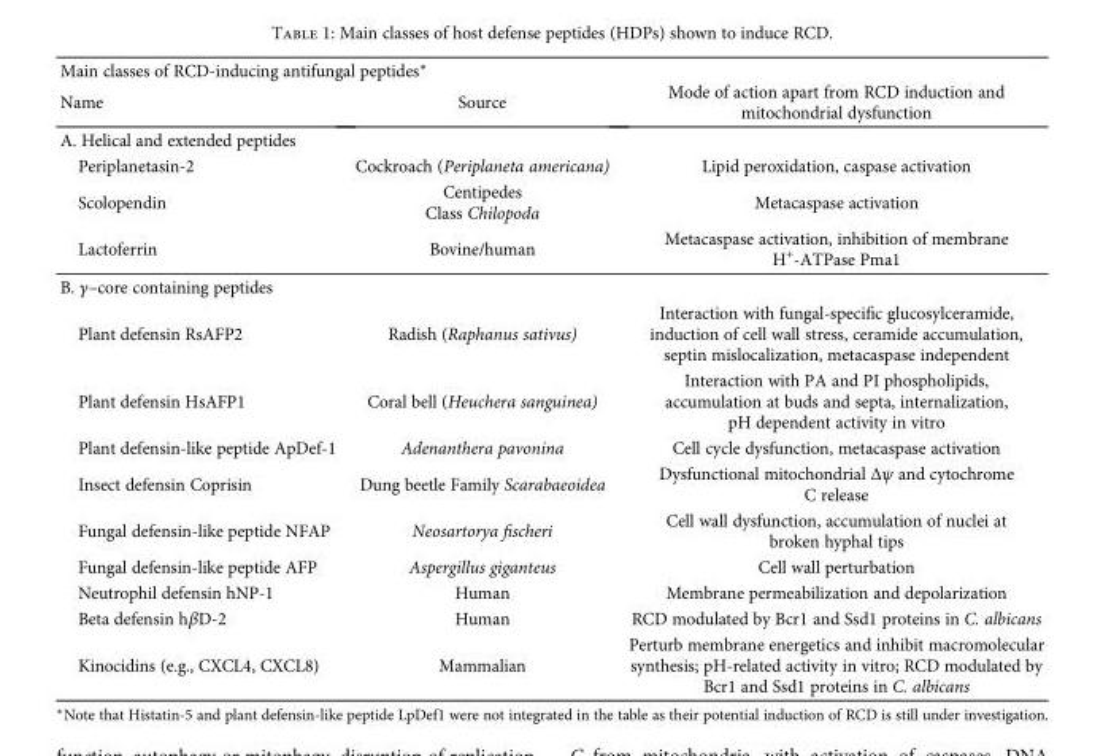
<table><thead><tr><td colspan="3">Main classes of RCD-inducing antifungal peptides∗</td></tr><tr><td>Name</td><td>Source</td><td>Mode of action apart from RCD induction and mitochondrial dysfunction</td></tr></thead><tbody><tr><td colspan="3">A. Helical and extended peptides</td></tr><tr><td>Periplanetasin-2</td><td>Cockroach (Periplaneta americana)</td><td>Lipid peroxidation, caspase activation</td></tr><tr><td>Scolopendin</td><td>Centipedes Class Chilopoda</td><td>Metacaspase activation</td></tr><tr><td>Lactoferrin</td><td>Bovine/human</td><td>Metacaspase activation, inhibition of membrane H<sup>+</sup>-ATPase Pma1</td></tr><tr><td colspan="3">B. γ–core containing peptides</td></tr><tr><td>Plant defensin RsAFP2</td><td>Radish (Raphanus sativus)</td><td>Interaction with fungal-specific glucosylceramide, induction of cell wall stress, ceramide accumulation, septin mislocalization, metacaspase independent</td></tr><tr><td>Plant defensin HsAFP1</td><td>Coral bell (Heuchera sanguinea)</td><td>Interaction with PA and PI phospholipids, accumulation at buds and septa, internalization, pH dependent activity in vitro</td></tr><tr><td>Plant defensin-like peptide ApDef-1</td><td>Adenanthera pavonina</td><td>Cell cycle dysfunction, metacaspase activation</td></tr><tr><td>Insect defensin Coprisin</td><td>Dung beetle Family Scarabaeoidea</td><td>Dysfunctional mitochondrial Δψ and cytochrome C release</td></tr><tr><td>Fungal defensin-like peptide NFAP</td><td>Neosartorya fischeri</td><td>Cell wall dysfunction, accumulation of nuclei at broken hyphal tips</td></tr><tr><td>Fungal defensin-like peptide AFP</td><td>Aspergillus giganteus</td><td>Cell wall perturbation</td></tr><tr><td>Neutrophil defensin hNP-1</td><td>Human</td><td>Membrane permeabilization and depolarization</td></tr><tr><td>Beta defensin hβD-2</td><td>Human</td><td>RCD modulated by Bcr1 and Ssd1 proteins in C. albicans</td></tr><tr><td>Kinocidins (e.g., CXCL4, CXCL8)</td><td>Mammalian</td><td>Perturb membrane energetics and inhibit macromolecular synthesis; pH-related activity in vitro; RCD modulated by Bcr1 and Ssd1 proteins in C. albicans</td></tr></tbody></table>